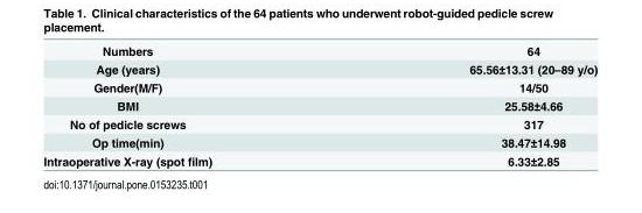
<table><tbody><tr><td>Numbers</td><td>64</td></tr><tr><td>Age (years)</td><td>65.56±13.31 (20–89 y/o)</td></tr><tr><td>Gender(M/F)</td><td>14/50</td></tr><tr><td>BMI</td><td>25.58±4.66</td></tr><tr><td>No of pedicle screws</td><td>317</td></tr><tr><td>Op time(min)</td><td>38.47±14.98</td></tr><tr><td>Intraoperative X-ray (spot film)</td><td>6.33±2.85</td></tr></tbody></table>